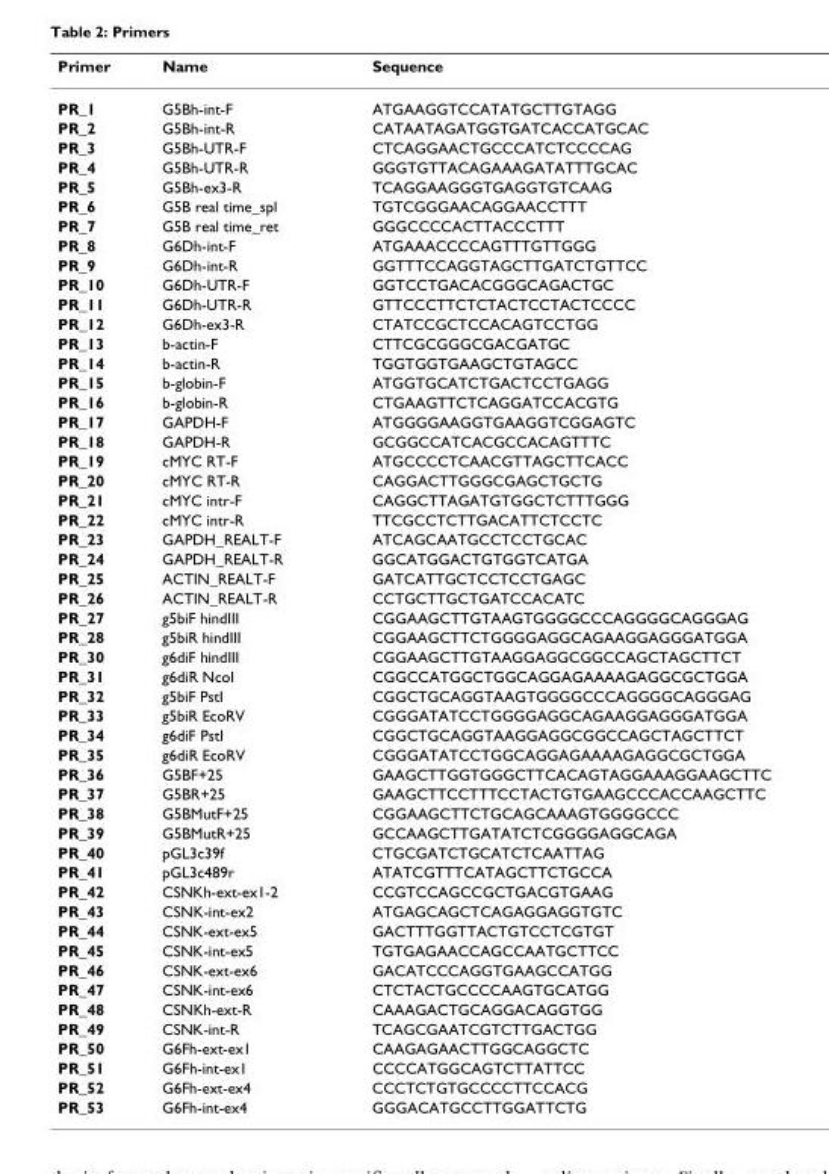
<table><thead><tr><td>Primer</td><td>Name</td><td>Sequence</td></tr></thead><tbody><tr><td>PR_1</td><td>G5Bh-int-F</td><td>ATGAAGGTCCATATGCTTGTAGG</td></tr><tr><td>PR_2</td><td>G5Bh-int-R</td><td>CATAATAGATGGTGATCACCATGCAC</td></tr><tr><td>PR_3</td><td>G5Bh-UTR-F</td><td>CTCAGGAACTGCCCATCTCCCCAG</td></tr><tr><td>PR_4</td><td>G5Bh-UTR-R</td><td>GGGTGTTACAGAAAGATATTTGCAC</td></tr><tr><td>PR_5</td><td>G5Bh-ex3-R</td><td>TCAGGAAGGGTGAGGTGTCAAG</td></tr><tr><td>PR_6</td><td>G5B real time_spl</td><td>TGTCGGGAACAGGAACCTTT</td></tr><tr><td>PR_7</td><td>G5B real time_ret</td><td>GGGCCCCACTTACCCTTT</td></tr><tr><td>PR_8</td><td>G6Dh-int-F</td><td>ATGAAACCCCAGTTTGTTGGG</td></tr><tr><td>PR_9</td><td>G6Dh-int-R</td><td>GGTTTCCAGGTAGCTTGATCTGTTCC</td></tr><tr><td>PR_10</td><td>G6Dh-UTR-F</td><td>GGTCCTGACACGGGCAGACTGC</td></tr><tr><td>PR_11</td><td>G6Dh-UTR-R</td><td>GTTCCCTTCTCTACTCCTACTCCCC</td></tr><tr><td>PR_12</td><td>G6Dh-ex3-R</td><td>CTATCCGCTCCACAGTCCTGG</td></tr><tr><td>PR_13</td><td>b-actin-F</td><td>CTTCGCGGGCGACGATGC</td></tr><tr><td>PR_14</td><td>b-actin-R</td><td>TGGTGGTGAAGCTGTAGCC</td></tr><tr><td>PR_15</td><td>b-globin-F</td><td>ATGGTGCATCTGACTCCTGAGG</td></tr><tr><td>PR_16</td><td>b-globin-R</td><td>CTGAAGTTCTCAGGATCCACGTG</td></tr><tr><td>PR_17</td><td>GAPDH-F</td><td>ATGGGGAAGGTGAAGGTCGGAGTC</td></tr><tr><td>PR_18</td><td>GAPDH-R</td><td>GCGGCCATCACGCCACAGTTTC</td></tr><tr><td>PR_19</td><td>cMYC RT-F</td><td>ATGCCCCTCAACGTTAGCTTCACC</td></tr><tr><td>PR_20</td><td>cMYC RT-R</td><td>CAGGACTTGGGCGAGCTGCTG</td></tr><tr><td>PR_21</td><td>cMYC intr-F</td><td>CAGGCTTAGATGTGGCTCTTTGGG</td></tr><tr><td>PR_22</td><td>cMYC intr-R</td><td>TTCGCCTCTTGACATTCTCCTC</td></tr><tr><td>PR_23</td><td>GAPDH_REALT-F</td><td>ATCAGCAATGCCTCCTGCAC</td></tr><tr><td>PR_24</td><td>GAPDH_REALT-R</td><td>GGCATGGACTGTGGTCATGA</td></tr><tr><td>PR_25</td><td>ACTIN_REALT-F</td><td>GATCATTGCTCCTCCTGAGC</td></tr><tr><td>PR_26</td><td>ACTIN_REALT-R</td><td>CCTGCTTGCTGATCCACATC</td></tr><tr><td>PR_27</td><td>g5biF hindIII</td><td>CGGAAGCTTGTAAGTGGGGCCCAGGGGCAGGGAG</td></tr><tr><td>PR_28</td><td>g5biR hindIII</td><td>CGGAAGCTTCTGGGGAGGCAGAAGGAGGGATGGA</td></tr><tr><td>PR_30</td><td>g6diF hindIII</td><td>CGGAAGCTTGTAAGGAGGCGGCCAGCTAGCTTCT</td></tr><tr><td>PR_31</td><td>g6diR NcoI</td><td>CGGCCATGGCTGGCAGGAGAAAAGAGGCGCTGGA</td></tr><tr><td>PR_32</td><td>g5biF PstI</td><td>CGGCTGCAGGTAAGTGGGGCCCAGGGGCAGGGAG</td></tr><tr><td>PR_33</td><td>g5biR EcoRV</td><td>CGGGATATCCTGGGGAGGCAGAAGGAGGGATGGA</td></tr><tr><td>PR_34</td><td>g6diF PstI</td><td>CGGCTGCAGGTAAGGAGGCGGCCAGCTAGCTTCT</td></tr><tr><td>PR_35</td><td>g6diR EcoRV</td><td>CGGGATATCCTGGCAGGAGAAAAGAGGCGCTGGA</td></tr><tr><td>PR_36</td><td>G5BF+25</td><td>GAAGCTTGGTGGGCTTCACAGTAGGAAAGGAAGCTTC</td></tr><tr><td>PR_37</td><td>G5BR+25</td><td>GAAGCTTCCTTTCCTACTGTGAAGCCCACCAAGCTTC</td></tr><tr><td>PR_38</td><td>G5BMutF+25</td><td>CGGAAGCTTCTGCAGCAAAGTGGGGCCC</td></tr><tr><td>PR_39</td><td>G5BMutR+25</td><td>GCCAAGCTTGATATCTCGGGGAGGCAGA</td></tr><tr><td>PR_40</td><td>pGL3c39f</td><td>CTGCGATCTGCATCTCAATTAG</td></tr><tr><td>PR_41</td><td>pGL3c489r</td><td>ATATCGTTTCATAGCTTCTGCCA</td></tr><tr><td>PR_42</td><td>CSNKh-ext-ex1-2</td><td>CCGTCCAGCCGCTGACGTGAAG</td></tr><tr><td>PR_43</td><td>CSNK-int-ex2</td><td>ATGAGCAGCTCAGAGGAGGTGTC</td></tr><tr><td>PR_44</td><td>CSNK-ext-ex5</td><td>GACTTTGGTTACTGTCCTCGTGT</td></tr><tr><td>PR_45</td><td>CSNK-int-ex5</td><td>TGTGAGAACCAGCCAATGCTTCC</td></tr><tr><td>PR_46</td><td>CSNK-ext-ex6</td><td>GACATCCCAGGTGAAGCCATGG</td></tr><tr><td>PR_47</td><td>CSNK-int-ex6</td><td>CTCTACTGCCCCAAGTGCATGG</td></tr><tr><td>PR_48</td><td>CSNKh-ext-R</td><td>CAAAGACTGCAGGACAGGTGG</td></tr><tr><td>PR_49</td><td>CSNK-int-R</td><td>TCAGCGAATCGTCTTGACTGG</td></tr><tr><td>PR_50</td><td>G6Fh-ext-ex1</td><td>CAAGAGAACTTGGCAGGCTC</td></tr><tr><td>PR_51</td><td>G6Fh-int-ex1</td><td>CCCCATGGCAGTCTTATTCC</td></tr><tr><td>PR_52</td><td>G6Fh-ext-ex4</td><td>CCCTCTGTGCCCCTTCCACG</td></tr><tr><td>PR_53</td><td>G6Fh-int-ex4</td><td>GGGACATGCCTTGGATTCTG</td></tr></tbody></table>